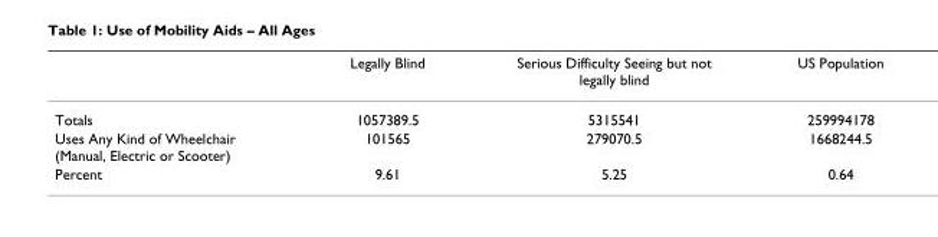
<table><thead><tr><td></td><td>Legally Blind</td><td>Serious Difficulty Seeing but not legally blind</td><td>US Population</td></tr></thead><tbody><tr><td>Totals</td><td>1057389.5</td><td>5315541</td><td>259994178</td></tr><tr><td>Uses Any Kind of Wheelchair (Manual, Electric or Scooter)</td><td>101565</td><td>279070.5</td><td>1668244.5</td></tr><tr><td>Percent</td><td>9.61</td><td>5.25</td><td>0.64</td></tr></tbody></table>